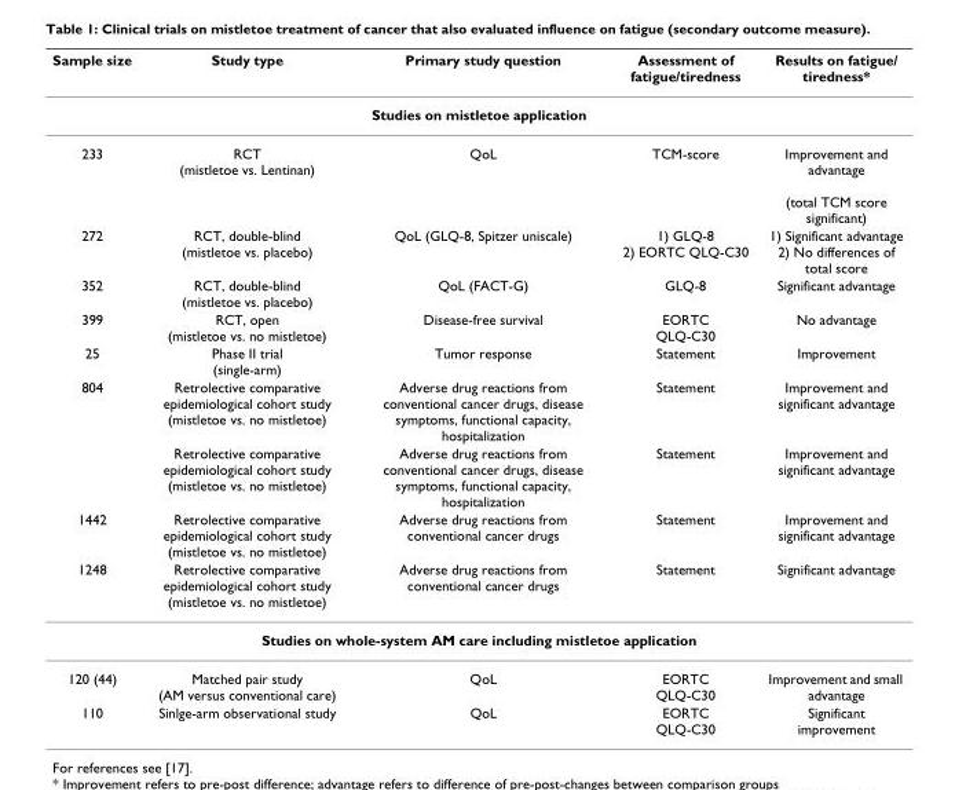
<table><thead><tr><td>Sample size</td><td>Study type</td><td>Primary study question</td><td>Assessment of fatigue/tiredness</td><td>Results on fatigue/ tiredness*</td></tr></thead><tbody><tr><td colspan="5">Studies on mistletoe application</td></tr><tr><td>233</td><td>RCT (mistletoe vs. Lentinan)</td><td>QoL</td><td>TCM-score</td><td>Improvement and advantage (total TCM score significant)</td></tr><tr><td>272</td><td>RCT, double-blind (mistletoe vs. placebo)</td><td>QoL (GLQ-8, Spitzer uniscale)</td><td>1) GLQ-8 2) EORTC QLQ-C30</td><td>1) Significant advantage 2) No differences of total score</td></tr><tr><td>352</td><td>RCT, double-blind (mistletoe vs. placebo)</td><td>QoL (FACT-G)</td><td>GLQ-8</td><td>Significant advantage</td></tr><tr><td>399</td><td>RCT, open (mistletoe vs. no mistletoe)</td><td>Disease-free survival</td><td>EORTC QLQ-C30</td><td>No advantage</td></tr><tr><td>25</td><td>Phase II trial (single-arm)</td><td>Tumor response</td><td>Statement</td><td>Improvement</td></tr><tr><td rowspan="2">804</td><td>Retrolective comparative epidemiological cohort study (mistletoe vs. no mistletoe)</td><td>Adverse drug reactions from conventional cancer drugs, disease symptoms, functional capacity, hospitalization</td><td>Statement</td><td>Improvement and significant advantage</td></tr><tr><td>Retrolective comparative epidemiological cohort study (mistletoe vs. no mistletoe)</td><td>Adverse drug reactions from conventional cancer drugs, disease symptoms, functional capacity, hospitalization</td><td>Statement</td><td>Improvement and significant advantage</td></tr><tr><td>1442</td><td>Retrolective comparative epidemiological cohort study (mistletoe vs. no mistletoe)</td><td>Adverse drug reactions from conventional cancer drugs</td><td>Statement</td><td>Improvement and significant advantage</td></tr><tr><td>1248</td><td>Retrolective comparative epidemiological cohort study (mistletoe vs. no mistletoe)</td><td>Adverse drug reactions from conventional cancer drugs</td><td>Statement</td><td>Significant advantage</td></tr><tr><td colspan="5">Studies on whole-system AM care including mistletoe application</td></tr><tr><td>120 (44)</td><td>Matched pair study (AM versus conventional care)</td><td>QoL</td><td>EORTC QLQ-C30</td><td>Improvement and small advantage</td></tr><tr><td>110</td><td>Sinlge-arm observational study</td><td>QoL</td><td>EORTC QLQ-C30</td><td>Significant improvement</td></tr></tbody></table>